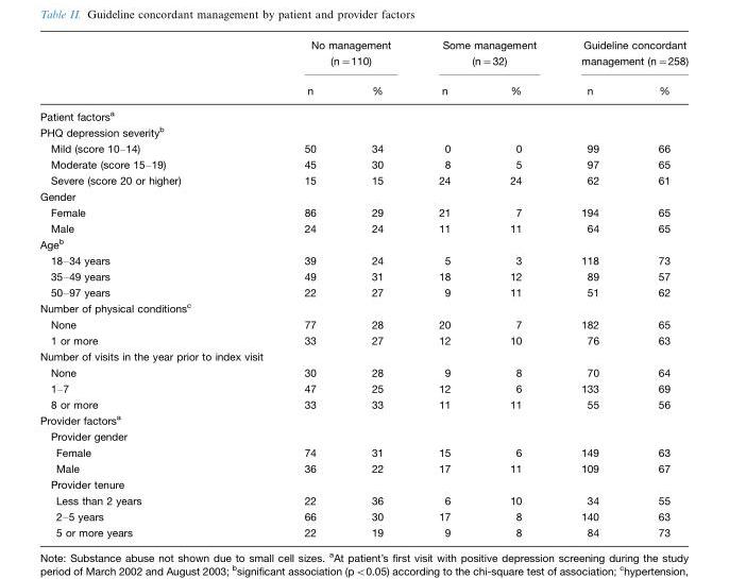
<table><thead><tr><td rowspan="2"></td><td colspan="2">No management (n=110)</td><td colspan="2">Some management (n=32)</td><td colspan="2">Guideline concordant management (n=258)</td></tr><tr><td>n</td><td>%</td><td>n</td><td>%</td><td>n</td><td>%</td></tr></thead><tbody><tr><td colspan="7">Patient factors<sup>a</sup></td></tr><tr><td colspan="7">PHQ depression severity<sup>b</sup></td></tr><tr><td>Mild (score 10–14)</td><td>50</td><td>34</td><td>0</td><td>0</td><td>99</td><td>66</td></tr><tr><td>Moderate (score 15–19)</td><td>45</td><td>30</td><td>8</td><td>5</td><td>97</td><td>65</td></tr><tr><td>Severe (score 20 or higher)</td><td>15</td><td>15</td><td>24</td><td>24</td><td>62</td><td>61</td></tr><tr><td colspan="7">Gender</td></tr><tr><td>Female</td><td>86</td><td>29</td><td>21</td><td>7</td><td>194</td><td>65</td></tr><tr><td>Male</td><td>24</td><td>24</td><td>11</td><td>11</td><td>64</td><td>65</td></tr><tr><td colspan="7">Age<sup>b</sup></td></tr><tr><td>18–34 years</td><td>39</td><td>24</td><td>5</td><td>3</td><td>118</td><td>73</td></tr><tr><td>35–49 years</td><td>49</td><td>31</td><td>18</td><td>12</td><td>89</td><td>57</td></tr><tr><td>50–97 years</td><td>22</td><td>27</td><td>9</td><td>11</td><td>51</td><td>62</td></tr><tr><td colspan="7">Number of physical conditions<sup>c</sup></td></tr><tr><td>None</td><td>77</td><td>28</td><td>20</td><td>7</td><td>182</td><td>65</td></tr><tr><td>1 or more</td><td>33</td><td>27</td><td>12</td><td>10</td><td>76</td><td>63</td></tr><tr><td colspan="7">Number of visits in the year prior to index visit</td></tr><tr><td>None</td><td>30</td><td>28</td><td>9</td><td>8</td><td>70</td><td>64</td></tr><tr><td>1–7</td><td>47</td><td>25</td><td>12</td><td>6</td><td>133</td><td>69</td></tr><tr><td>8 or more</td><td>33</td><td>33</td><td>11</td><td>11</td><td>55</td><td>56</td></tr><tr><td colspan="7">Provider factors<sup>a</sup></td></tr><tr><td colspan="7">Provider gender</td></tr><tr><td>Female</td><td>74</td><td>31</td><td>15</td><td>6</td><td>149</td><td>63</td></tr><tr><td>Male</td><td>36</td><td>22</td><td>17</td><td>11</td><td>109</td><td>67</td></tr><tr><td colspan="7">Provider tenure</td></tr><tr><td>Less than 2 years</td><td>22</td><td>36</td><td>6</td><td>10</td><td>34</td><td>55</td></tr><tr><td>2–5 years</td><td>66</td><td>30</td><td>17</td><td>8</td><td>140</td><td>63</td></tr><tr><td>5 or more years</td><td>22</td><td>19</td><td>9</td><td>8</td><td>84</td><td>73</td></tr></tbody></table>